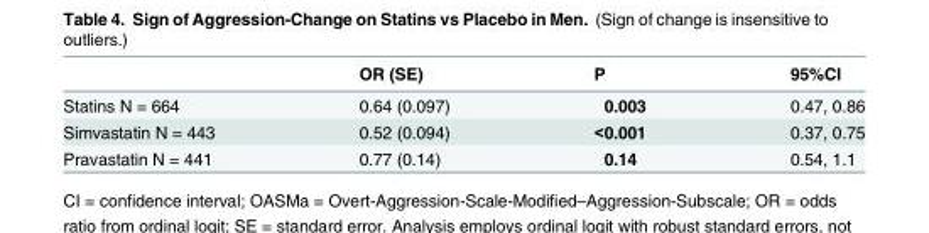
<table><thead><tr><td></td><td>OR (SE)</td><td>P</td><td>95%CI</td></tr></thead><tbody><tr><td>Statins N = 664</td><td>0.64 (0.097)</td><td>0.003</td><td>0.47, 0.86</td></tr><tr><td>Simvastatin N = 443</td><td>0.52 (0.094)</td><td>&lt;0.001</td><td>0.37, 0.75</td></tr><tr><td>Pravastatin N = 441</td><td>0.77 (0.14)</td><td>0.14</td><td>0.54, 1.1</td></tr></tbody></table>